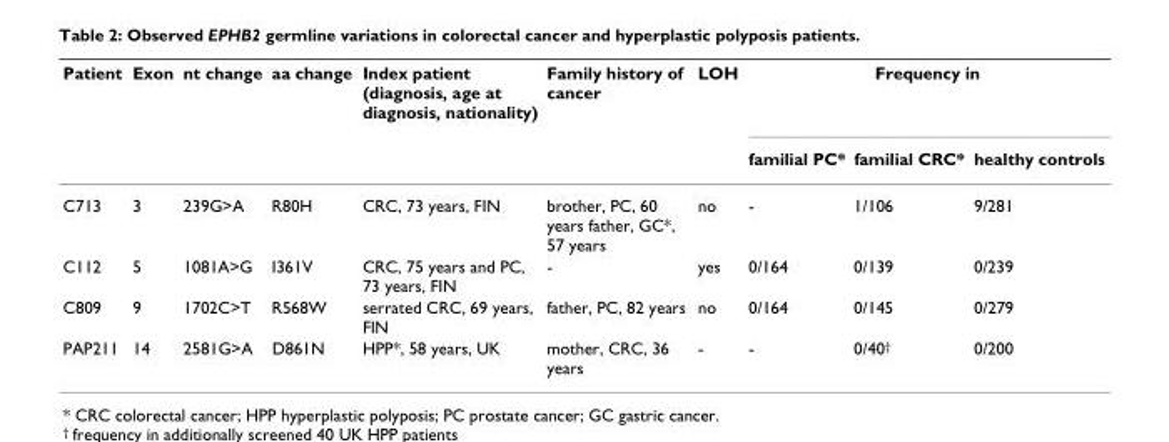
<table><thead><tr><td rowspan="2">Patient</td><td rowspan="2">Exon</td><td rowspan="2">nt change</td><td rowspan="2">aa change</td><td rowspan="2">Index patient (diagnosis, age at diagnosis, nationality)</td><td rowspan="2">Family history of cancer</td><td rowspan="2">LOH</td><td colspan="3">Frequency in</td></tr><tr><td>familial PC*</td><td>familial CRC*</td><td>healthy controls</td></tr></thead><tbody><tr><td>C713</td><td>3</td><td>239G&gt;A</td><td>R80H</td><td>CRC, 73 years, FIN</td><td>brother, PC, 60 years father, GC*, 57 years</td><td>no</td><td>-</td><td>1/106</td><td>9/281</td></tr><tr><td>C112</td><td>5</td><td>1081A&gt;G</td><td>I361V</td><td>CRC, 75 years and PC, 73 years, FIN</td><td>-</td><td>yes</td><td>0/164</td><td>0/139</td><td>0/239</td></tr><tr><td>C809</td><td>9</td><td>1702C&gt;T</td><td>R568W</td><td>serrated CRC, 69 years, FIN</td><td>father, PC, 82 years</td><td>no</td><td>0/164</td><td>0/145</td><td>0/279</td></tr><tr><td>PAP211</td><td>14</td><td>2581G&gt;A</td><td>D861N</td><td>HPP*, 58 years, UK</td><td>mother, CRC, 36 years</td><td>-</td><td>-</td><td>0/40†</td><td>0/200</td></tr></tbody></table>